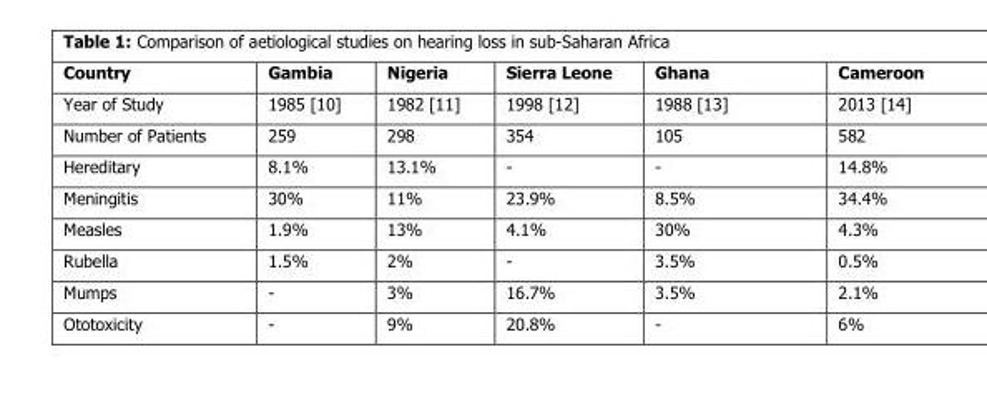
<table><thead><tr><td>Country</td><td>Gambia</td><td>Nigeria</td><td>Sierra Leone</td><td>Ghana</td><td>Cameroon</td></tr></thead><tbody><tr><td>Year of Study</td><td>1985 [10]</td><td>1982 [11]</td><td>1998 [12]</td><td>1988 [13]</td><td>2013 [14]</td></tr><tr><td>Number of Patients</td><td>259</td><td>298</td><td>354</td><td>105</td><td>582</td></tr><tr><td>Hereditary</td><td>8.1%</td><td>13.1%</td><td>-</td><td>-</td><td>14.8%</td></tr><tr><td>Meningitis</td><td>30%</td><td>11%</td><td>23.9%</td><td>8.5%</td><td>34.4%</td></tr><tr><td>Measles</td><td>1.9%</td><td>13%</td><td>4.1%</td><td>30%</td><td>4.3%</td></tr><tr><td>Rubella</td><td>1.5%</td><td>2%</td><td>-</td><td>3.5%</td><td>0.5%</td></tr><tr><td>Mumps</td><td>-</td><td>3%</td><td>16.7%</td><td>3.5%</td><td>2.1%</td></tr><tr><td>Ototoxicity</td><td>-</td><td>9%</td><td>20.8%</td><td>-</td><td>6%</td></tr></tbody></table>